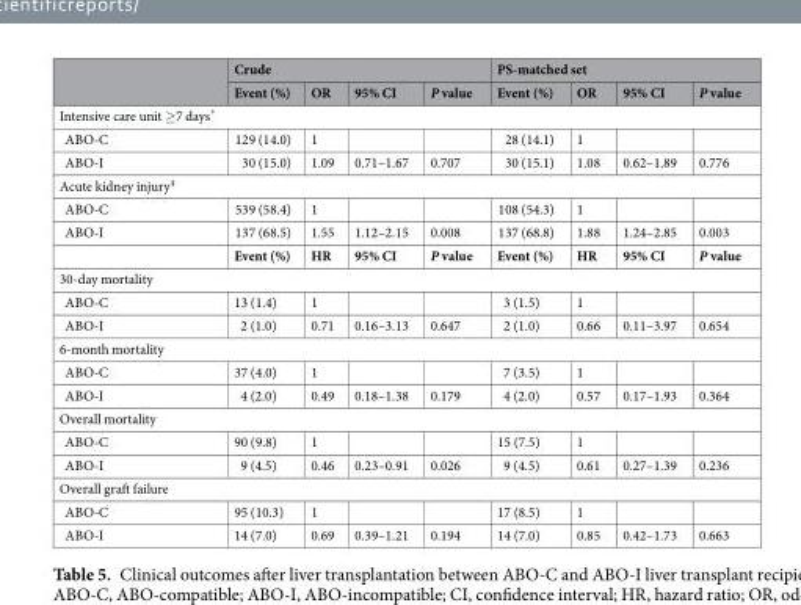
<table><thead><tr><td rowspan="2"></td><td colspan="4">Crude</td><td colspan="4">PS-matched set</td></tr><tr><td>Event (%)</td><td>OR</td><td>95% CI</td><td>P value</td><td>Event (%)</td><td>OR</td><td>95% CI</td><td>P value</td></tr></thead><tbody><tr><td colspan="9">Intensive care unit ≥7 days*</td></tr><tr><td>ABO-C</td><td>129 (14.0)</td><td>1</td><td></td><td></td><td>28 (14.1)</td><td>1</td><td></td><td></td></tr><tr><td>ABO-I</td><td>30 (15.0)</td><td>1.09</td><td>0.71–1.67</td><td>0.707</td><td>30 (15.1)</td><td>1.08</td><td>0.62–1.89</td><td>0.776</td></tr><tr><td colspan="9">Acute kidney injury<sup>‡</sup></td></tr><tr><td>ABO-C</td><td>539 (58.4)</td><td>1</td><td></td><td></td><td>108 (54.3)</td><td>1</td><td></td><td></td></tr><tr><td rowspan="2">ABO-I</td><td>137 (68.5)</td><td>1.55</td><td>1.12–2.15</td><td>0.008</td><td>137 (68.8)</td><td>1.88</td><td>1.24–2.85</td><td>0.003</td></tr><tr><td>Event (%)</td><td>HR</td><td>95% CI</td><td>P value</td><td>Event (%)</td><td>HR</td><td>95% CI</td><td>P value</td></tr><tr><td colspan="9">30-day mortality</td></tr><tr><td>ABO-C</td><td>13 (1.4)</td><td>1</td><td></td><td></td><td>3 (1.5)</td><td>1</td><td></td><td></td></tr><tr><td>ABO-I</td><td>2 (1.0)</td><td>0.71</td><td>0.16–3.13</td><td>0.647</td><td>2 (1.0)</td><td>0.66</td><td>0.11–3.97</td><td>0.654</td></tr><tr><td colspan="9">6-month mortality</td></tr><tr><td>ABO-C</td><td>37 (4.0)</td><td>1</td><td></td><td></td><td>7 (3.5)</td><td>1</td><td></td><td></td></tr><tr><td>ABO-I</td><td>4 (2.0)</td><td>0.49</td><td>0.18–1.38</td><td>0.179</td><td>4 (2.0)</td><td>0.57</td><td>0.17–1.93</td><td>0.364</td></tr><tr><td colspan="9">Overall mortality</td></tr><tr><td>ABO-C</td><td>90 (9.8)</td><td>1</td><td></td><td></td><td>15 (7.5)</td><td>1</td><td></td><td></td></tr><tr><td>ABO-I</td><td>9 (4.5)</td><td>0.46</td><td>0.23–0.91</td><td>0.026</td><td>9 (4.5)</td><td>0.61</td><td>0.27–1.39</td><td>0.236</td></tr><tr><td colspan="9">Overall graft failure</td></tr><tr><td>ABO-C</td><td>95 (10.3)</td><td>1</td><td></td><td></td><td>17 (8.5)</td><td>1</td><td></td><td></td></tr><tr><td>ABO-I</td><td>14 (7.0)</td><td>0.69</td><td>0.39–1.21</td><td>0.194</td><td>14 (7.0)</td><td>0.85</td><td>0.42–1.73</td><td>0.663</td></tr></tbody></table>